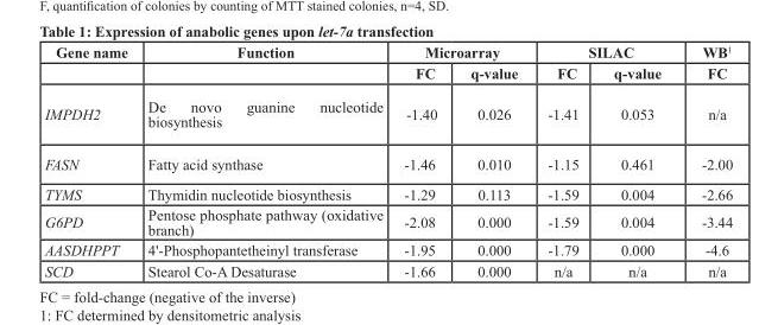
<table><thead><tr><td rowspan="2">Gene name</td><td rowspan="2">Function</td><td colspan="2">Microarray</td><td colspan="2">SILAC</td><td rowspan="2">WB<sup>1</sup> FC</td></tr><tr><td>FC</td><td>q-value</td><td>FC</td><td>q-value</td></tr></thead><tbody><tr><td>IMPDH2</td><td>De novo guanine nucleotide biosynthesis</td><td>-1.40</td><td>0.026</td><td>-1.41</td><td>0.053</td><td>n/a</td></tr><tr><td>FASN</td><td>Fatty acid synthase</td><td>-1.46</td><td>0.010</td><td>-1.15</td><td>0.461</td><td>-2.00</td></tr><tr><td>TYMS</td><td>Thymidin nucleotide biosynthesis</td><td>-1.29</td><td>0.113</td><td>-1.59</td><td>0.004</td><td>-2.66</td></tr><tr><td>G6PD</td><td>Pentose phosphate pathway (oxidative branch)</td><td>-2.08</td><td>0.000</td><td>-1.59</td><td>0.004</td><td>-3.44</td></tr><tr><td>AASDHPPT</td><td>4&#x27;-Phosphopantetheinyl transferase</td><td>-1.95</td><td>0.000</td><td>-1.79</td><td>0.000</td><td>-4.6</td></tr><tr><td>SCD</td><td>Stearol Co-A Desaturase</td><td>-1.66</td><td>0.000</td><td>n/a</td><td>n/a</td><td>n/a</td></tr></tbody></table>